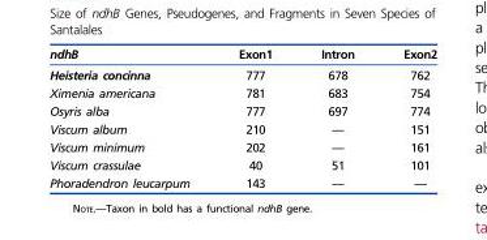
<table><thead><tr><td>ndhB</td><td>Exon1</td><td>Intron</td><td>Exon2</td></tr></thead><tbody><tr><td>Heisteria concinna</td><td>777</td><td>678</td><td>762</td></tr><tr><td>Ximenia americana</td><td>781</td><td>683</td><td>754</td></tr><tr><td>Osyris alba</td><td>777</td><td>697</td><td>774</td></tr><tr><td>Viscum album</td><td>210</td><td>—</td><td>151</td></tr><tr><td>Viscum minimum</td><td>202</td><td>—</td><td>161</td></tr><tr><td>Viscum crassulae</td><td>40</td><td>51</td><td>101</td></tr><tr><td>Phoradendron leucarpum</td><td>143</td><td>—</td><td>—</td></tr></tbody></table>